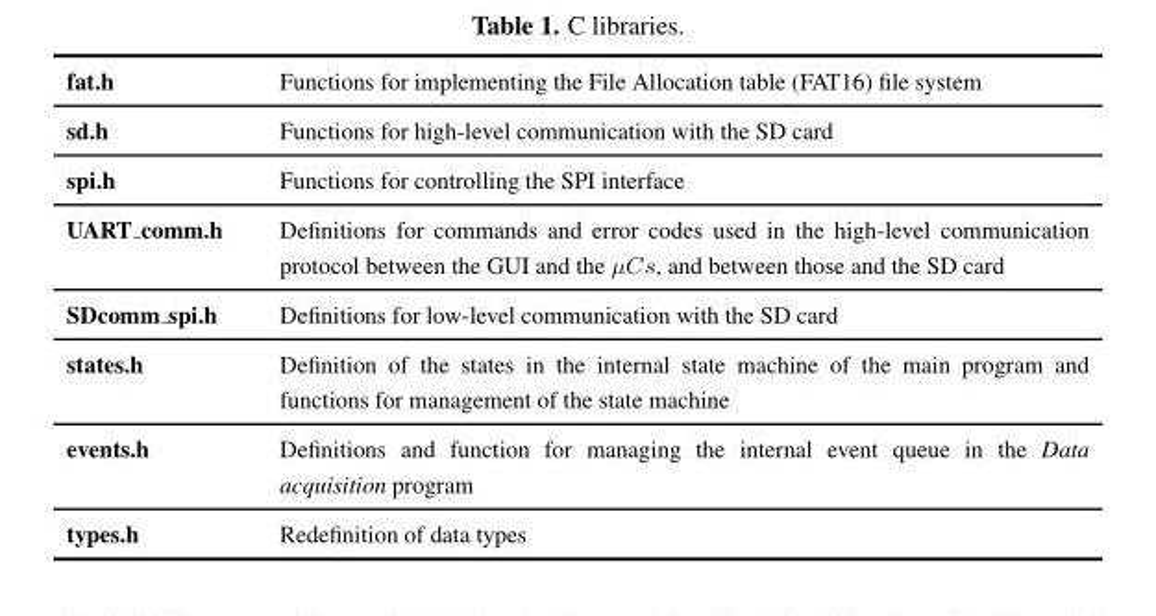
<table><tbody><tr><td>fat.h</td><td>Functions for implementing the File Allocation table (FAT16) file system</td></tr><tr><td>sd.h</td><td>Functions for high-level communication with the SD card</td></tr><tr><td>spi.h</td><td>Functions for controlling the SPI interface</td></tr><tr><td>UART comm.h</td><td>Definitions for commands and error codes used in the high-level communication protocol between the GUI and the µCs, and between those and the SD card</td></tr><tr><td>SDcomm spi.h</td><td>Definitions for low-level communication with the SD card</td></tr><tr><td>states.h</td><td>Definition of the states in the internal state machine of the main program and functions for management of the state machine</td></tr><tr><td>events.h</td><td>Definitions and function for managing the internal event queue in the Data acquisition program</td></tr><tr><td>types.h</td><td>Redefinition of data types</td></tr></tbody></table>